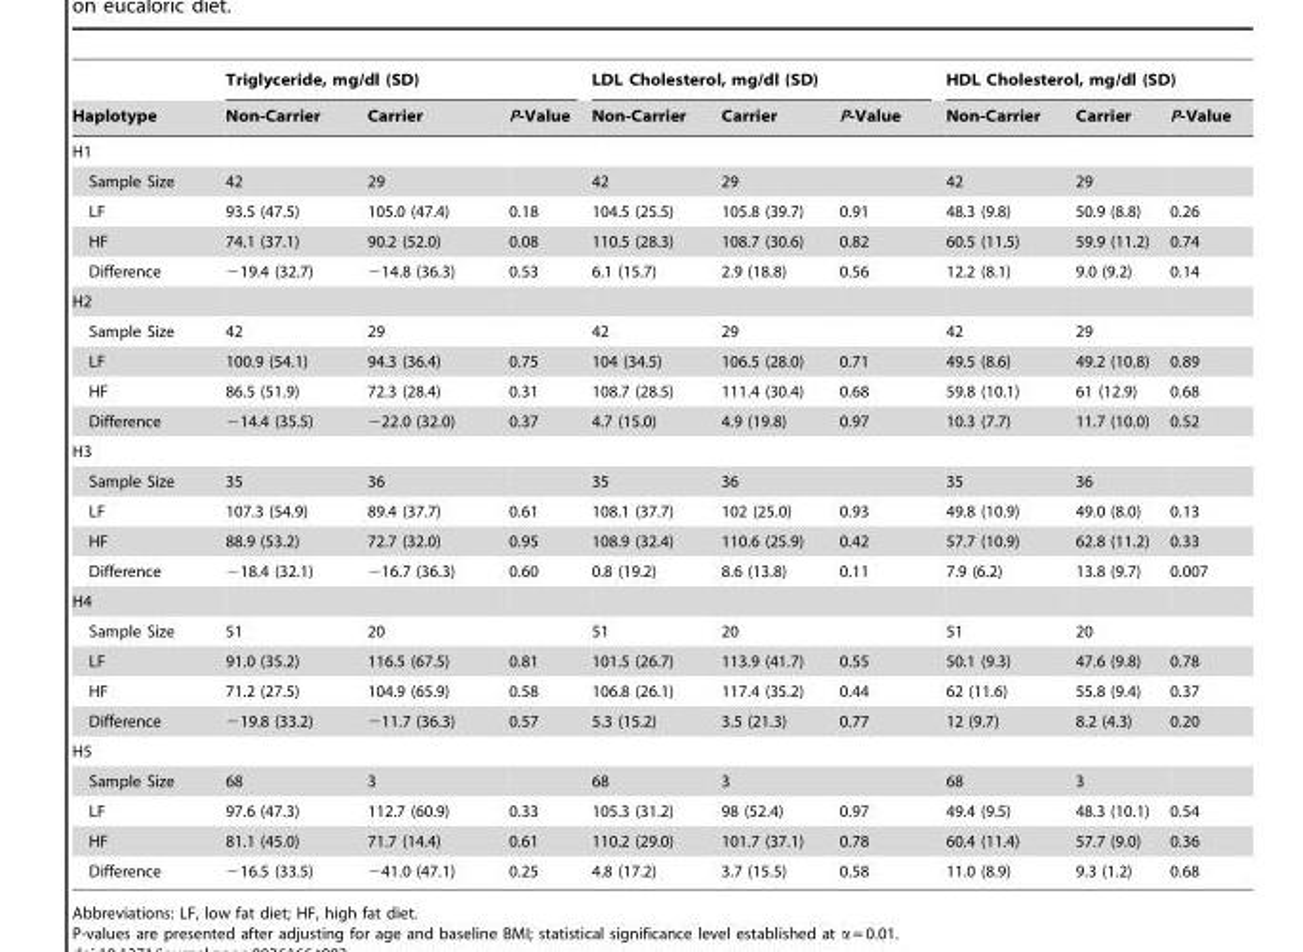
<table><thead><tr><td rowspan="2">Haplotype</td><td colspan="3">Triglyceride, mg/dl (SD)</td><td colspan="3">LDL Cholesterol, mg/dl (SD)</td><td colspan="3">HDL Cholesterol, mg/dl (SD)</td></tr><tr><td>Non-Carrier</td><td>Carrier</td><td>P-Value</td><td>Non-Carrier</td><td>Carrier</td><td>P-Value</td><td>Non-Carrier</td><td>Carrier</td><td>P-Value</td></tr></thead><tbody><tr><td colspan="10">H1</td></tr><tr><td>Sample Size</td><td>42</td><td>29</td><td></td><td>42</td><td>29</td><td></td><td>42</td><td>29</td><td></td></tr><tr><td>LF</td><td>93.5 (47.5)</td><td>105.0 (47.4)</td><td>0.18</td><td>104.5 (25.5)</td><td>105.8 (39.7)</td><td>0.91</td><td>48.3 (9.8)</td><td>50.9 (8.8)</td><td>0.26</td></tr><tr><td>HF</td><td>74.1 (37.1)</td><td>90.2 (52.0)</td><td>0.08</td><td>110.5 (28.3)</td><td>108.7 (30.6)</td><td>0.82</td><td>60.5 (11.5)</td><td>59.9 (11.2)</td><td>0.74</td></tr><tr><td>Difference</td><td>−19.4 (32.7)</td><td>−14.8 (36.3)</td><td>0.53</td><td>6.1 (15.7)</td><td>2.9 (18.8)</td><td>0.56</td><td>12.2 (8.1)</td><td>9.0 (9.2)</td><td>0.14</td></tr><tr><td colspan="10">H2</td></tr><tr><td>Sample Size</td><td>42</td><td>29</td><td></td><td>42</td><td>29</td><td></td><td>42</td><td>29</td><td></td></tr><tr><td>LF</td><td>100.9 (54.1)</td><td>94.3 (36.4)</td><td>0.75</td><td>104 (34.5)</td><td>106.5 (28.0)</td><td>0.71</td><td>49.5 (8.6)</td><td>49.2 (10.8)</td><td>0.89</td></tr><tr><td>HF</td><td>86.5 (51.9)</td><td>72.3 (28.4)</td><td>0.31</td><td>108.7 (28.5)</td><td>111.4 (30.4)</td><td>0.68</td><td>59.8 (10.1)</td><td>61 (12.9)</td><td>0.68</td></tr><tr><td>Difference</td><td>−14.4 (35.5)</td><td>−22.0 (32.0)</td><td>0.37</td><td>4.7 (15.0)</td><td>4.9 (19.8)</td><td>0.97</td><td>10.3 (7.7)</td><td>11.7 (10.0)</td><td>0.52</td></tr><tr><td colspan="10">H3</td></tr><tr><td>Sample Size</td><td>35</td><td>36</td><td></td><td>35</td><td>36</td><td></td><td>35</td><td>36</td><td></td></tr><tr><td>LF</td><td>107.3 (54.9)</td><td>89.4 (37.7)</td><td>0.61</td><td>108.1 (37.7)</td><td>102 (25.0)</td><td>0.93</td><td>49.8 (10.9)</td><td>49.0 (8.0)</td><td>0.13</td></tr><tr><td>HF</td><td>88.9 (53.2)</td><td>72.7 (32.0)</td><td>0.95</td><td>108.9 (32.4)</td><td>110.6 (25.9)</td><td>0.42</td><td>57.7 (10.9)</td><td>62.8 (11.2)</td><td>0.33</td></tr><tr><td>Difference</td><td>−18.4 (32.1)</td><td>−16.7 (36.3)</td><td>0.60</td><td>0.8 (19.2)</td><td>8.6 (13.8)</td><td>0.11</td><td>7.9 (6.2)</td><td>13.8 (9.7)</td><td>0.007</td></tr><tr><td colspan="10">H4</td></tr><tr><td>Sample Size</td><td>51</td><td>20</td><td></td><td>51</td><td>20</td><td></td><td>51</td><td>20</td><td></td></tr><tr><td>LF</td><td>91.0 (35.2)</td><td>116.5 (67.5)</td><td>0.81</td><td>101.5 (26.7)</td><td>113.9 (41.7)</td><td>0.55</td><td>50.1 (9.3)</td><td>47.6 (9.8)</td><td>0.78</td></tr><tr><td>HF</td><td>71.2 (27.5)</td><td>104.9 (65.9)</td><td>0.58</td><td>106.8 (26.1)</td><td>117.4 (35.2)</td><td>0.44</td><td>62 (11.6)</td><td>55.8 (9.4)</td><td>0.37</td></tr><tr><td>Difference</td><td>−19.8 (33.2)</td><td>−11.7 (36.3)</td><td>0.57</td><td>5.3 (15.2)</td><td>3.5 (21.3)</td><td>0.77</td><td>12 (9.7)</td><td>8.2 (4.3)</td><td>0.20</td></tr><tr><td colspan="10">H5</td></tr><tr><td>Sample Size</td><td>68</td><td>3</td><td></td><td>68</td><td>3</td><td></td><td>68</td><td>3</td><td></td></tr><tr><td>LF</td><td>97.6 (47.3)</td><td>112.7 (60.9)</td><td>0.33</td><td>105.3 (31.2)</td><td>98 (52.4)</td><td>0.97</td><td>49.4 (9.5)</td><td>48.3 (10.1)</td><td>0.54</td></tr><tr><td>HF</td><td>81.1 (45.0)</td><td>71.7 (14.4)</td><td>0.61</td><td>110.2 (29.0)</td><td>101.7 (37.1)</td><td>0.78</td><td>60.4 (11.4)</td><td>57.7 (9.0)</td><td>0.36</td></tr><tr><td>Difference</td><td>−16.5 (33.5)</td><td>−41.0 (47.1)</td><td>0.25</td><td>4.8 (17.2)</td><td>3.7 (15.5)</td><td>0.58</td><td>11.0 (8.9)</td><td>9.3 (1.2)</td><td>0.68</td></tr></tbody></table>